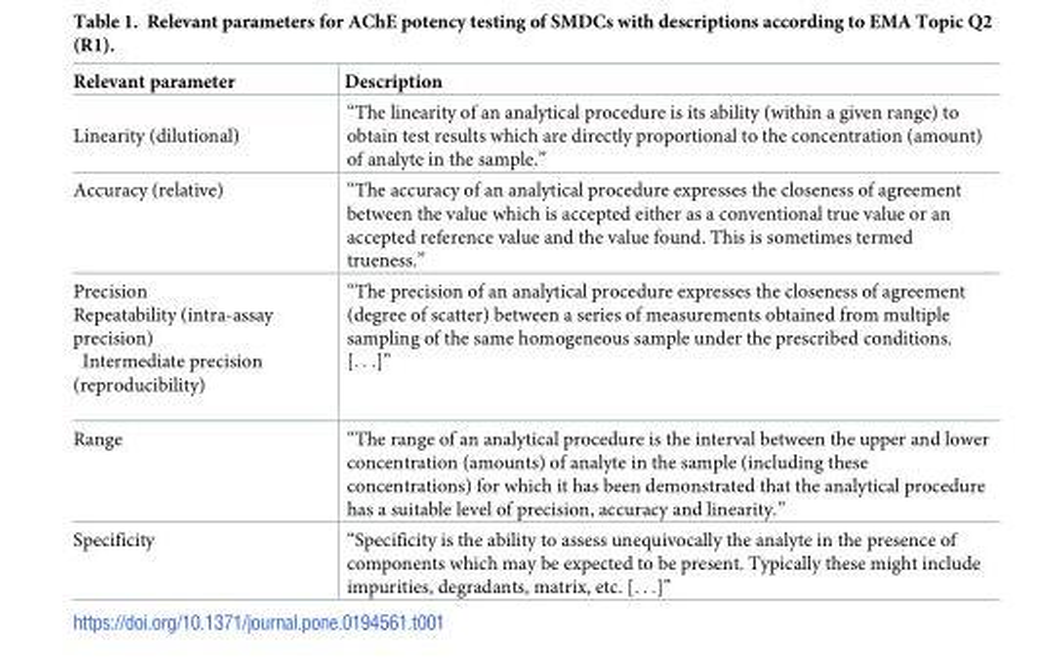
<table><thead><tr><td>Relevant parameter</td><td>Description</td></tr></thead><tbody><tr><td>Linearity (dilutional)</td><td>“The linearity of an analytical procedure is its ability (within a given range) to obtain test results which are directly proportional to the concentration (amount) of analyte in the sample.”</td></tr><tr><td>Accuracy (relative)</td><td>“The accuracy of an analytical procedure expresses the closeness of agreement between the value which is accepted either as a conventional true value or an accepted reference value and the value found. This is sometimes termed trueness.”</td></tr><tr><td>Precision Repeatability (intra-assay precision) Intermediate precision (reproducibility)</td><td>“The precision of an analytical procedure expresses the closeness of agreement (degree of scatter) between a series of measurements obtained from multiple sampling of the same homogeneous sample under the prescribed conditions. [. . .]”</td></tr><tr><td>Range</td><td>“The range of an analytical procedure is the interval between the upper and lower concentration (amounts) of analyte in the sample (including these concentrations) for which it has been demonstrated that the analytical procedure has a suitable level of precision, accuracy and linearity.”</td></tr><tr><td>Specificity</td><td>“Specificity is the ability to assess unequivocally the analyte in the presence of components which may be expected to be present. Typically these might include impurities, degradants, matrix, etc. [. . .]”</td></tr></tbody></table>